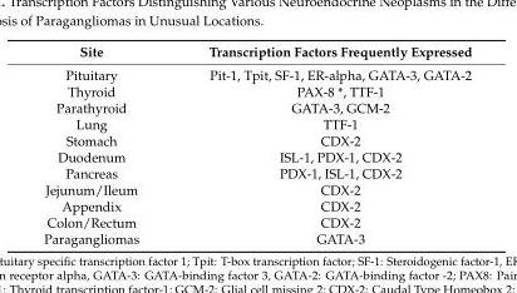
<table><thead><tr><td>Site</td><td>Transcription Factors Frequently Expressed</td></tr></thead><tbody><tr><td>Pituitary</td><td>Pit-1, Tpit, SF-1, ER-alpha, GATA-3, GATA-2</td></tr><tr><td>Thyroid</td><td>PAX-8 *, TTF-1</td></tr><tr><td>Parathyroid</td><td>GATA-3, GCM-2</td></tr><tr><td>Lung</td><td>TTF-1</td></tr><tr><td>Stomach</td><td>CDX-2</td></tr><tr><td>Duodenum</td><td>ISL-1, PDX-1, CDX-2</td></tr><tr><td>Pancreas</td><td>PDX-1, ISL-1, CDX-2</td></tr><tr><td>Jejunum/Ileum</td><td>CDX-2</td></tr><tr><td>Appendix</td><td>CDX-2</td></tr><tr><td>Colon/Rectum</td><td>CDX-2</td></tr><tr><td>Paragangliomas</td><td>GATA-3</td></tr></tbody></table>